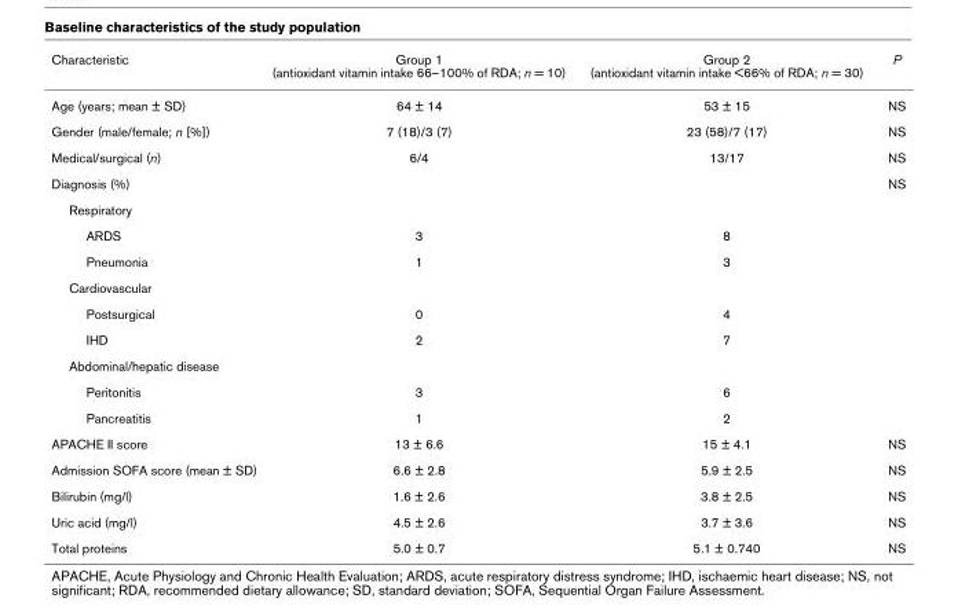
<table><thead><tr><td>Characteristic</td><td>Group 1 (antioxidant vitamin intake 66–100% of RDA; n = 10)</td><td>Group 2 (antioxidant vitamin intake &lt;66% of RDA; n = 30)</td><td>P</td></tr></thead><tbody><tr><td>Age (years; mean ± SD)</td><td>64 ± 14</td><td>53 ± 15</td><td>NS</td></tr><tr><td>Gender (male/female; n [%])</td><td>7 (18)/3 (7)</td><td>23 (58)/7 (17)</td><td>NS</td></tr><tr><td>Medical/surgical (n)</td><td>6/4</td><td>13/17</td><td>NS</td></tr><tr><td>Diagnosis (%)</td><td></td><td></td><td>NS</td></tr><tr><td colspan="4">Respiratory</td></tr><tr><td>ARDS</td><td>3</td><td>8</td><td></td></tr><tr><td>Pneumonia</td><td>1</td><td>3</td><td></td></tr><tr><td colspan="4">Cardiovascular</td></tr><tr><td>Postsurgical</td><td>0</td><td>4</td><td></td></tr><tr><td>IHD</td><td>2</td><td>7</td><td></td></tr><tr><td colspan="4">Abdominal/hepatic disease</td></tr><tr><td>Peritonitis</td><td>3</td><td>6</td><td></td></tr><tr><td>Pancreatitis</td><td>1</td><td>2</td><td></td></tr><tr><td>APACHE II score</td><td>13 ± 6.6</td><td>15 ± 4.1</td><td>NS</td></tr><tr><td>Admission SOFA score (mean ± SD)</td><td>6.6 ± 2.8</td><td>5.9 ± 2.5</td><td>NS</td></tr><tr><td>Bilirubin (mg/l)</td><td>1.6 ± 2.6</td><td>3.8 ± 2.5</td><td>NS</td></tr><tr><td>Uric acid (mg/l)</td><td>4.5 ± 2.6</td><td>3.7 ± 3.6</td><td>NS</td></tr><tr><td>Total proteins</td><td>5.0 ± 0.7</td><td>5.1 ± 0.740</td><td>NS</td></tr></tbody></table>